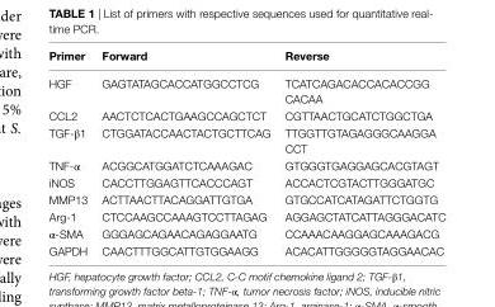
<table><thead><tr><td>Primer</td><td>Forward</td><td>reverse</td></tr></thead><tbody><tr><td>HGF</td><td>GAGTATAGCACCATGGCCTCG</td><td>TCATCAGACACCACACCGG CACAA</td></tr><tr><td>CCL2</td><td>AACTCTCACTGAAGCCAGCTCT</td><td>CGTTAACTGCATCTGGCTGA</td></tr><tr><td>TGF-β1</td><td>CTGGATACCAACTACTGCTTCAG</td><td>TTGGTTGTAGAGGGCAAGGA CCT</td></tr><tr><td>TNF-α</td><td>ACGGCATGGATCTCAAAGAC</td><td>GTGGGTGAGGAGCACGTAGT</td></tr><tr><td>iNOS</td><td>CACCTTGGAGTTCACCCAGT</td><td>ACCACTCGTACTTGGGATGC</td></tr><tr><td>MMP13</td><td>ACTTAACTTACAGGATTGTGA</td><td>GTGCCATCATAGATTCTGGTG</td></tr><tr><td>Arg-1</td><td>CTCCAAGCCAAAGTCCTTAGAG</td><td>AGGAGCTATCATTAGGGACATC</td></tr><tr><td>α-SMA</td><td>GGGAGCAGAACAGAGGAATG</td><td>CCAAACAAGGAGCAAAGACG</td></tr><tr><td>GAPDH</td><td>CAACTTTGGCATTGTGGAAGG</td><td>ACACATTGGGGGTAGGAACAC</td></tr></tbody></table>